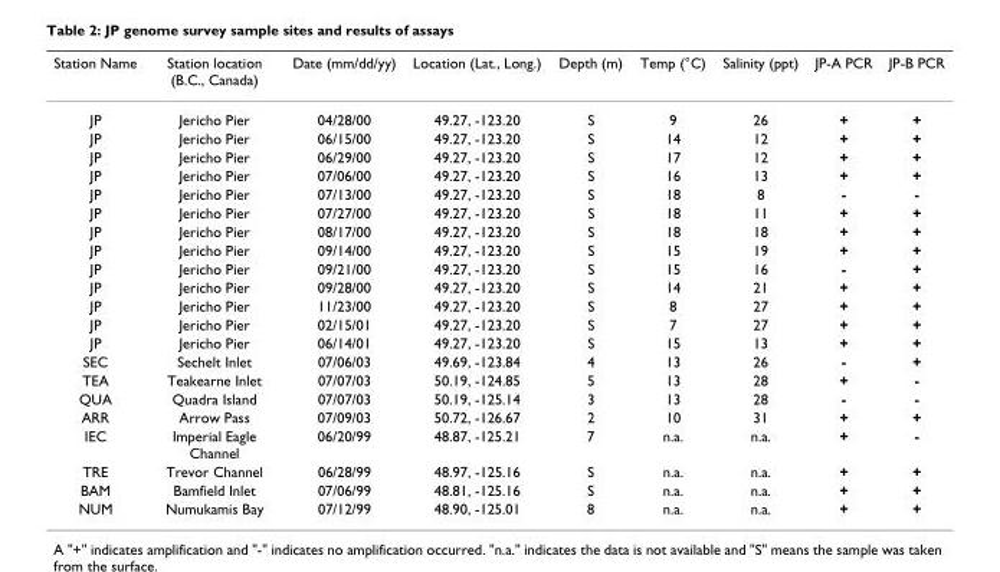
<table><thead><tr><td>Station Name</td><td>Station location (B.C., Canada)</td><td>Date (mm/dd/yy)</td><td>Location (Lat., Long.)</td><td>Depth (m)</td><td>Temp (°C)</td><td>Salinity (ppt)</td><td>JP-A PCR</td><td>JP-B PCR</td></tr></thead><tbody><tr><td>JP</td><td>Jericho Pier</td><td>04/28/00</td><td>49.27, -123.20</td><td>S</td><td>9</td><td>26</td><td>+</td><td>+</td></tr><tr><td>JP</td><td>Jericho Pier</td><td>06/15/00</td><td>49.27, -123.20</td><td>S</td><td>14</td><td>12</td><td>+</td><td>+</td></tr><tr><td>JP</td><td>Jericho Pier</td><td>06/29/00</td><td>49.27, -123.20</td><td>S</td><td>17</td><td>12</td><td>+</td><td>+</td></tr><tr><td>JP</td><td>Jericho Pier</td><td>07/06/00</td><td>49.27, -123.20</td><td>S</td><td>16</td><td>13</td><td>+</td><td>+</td></tr><tr><td>JP</td><td>Jericho Pier</td><td>07/13/00</td><td>49.27, -123.20</td><td>S</td><td>18</td><td>8</td><td>-</td><td>-</td></tr><tr><td>JP</td><td>Jericho Pier</td><td>07/27/00</td><td>49.27, -123.20</td><td>S</td><td>18</td><td>11</td><td>+</td><td>+</td></tr><tr><td>JP</td><td>Jericho Pier</td><td>08/17/00</td><td>49.27, -123.20</td><td>S</td><td>18</td><td>18</td><td>+</td><td>+</td></tr><tr><td>JP</td><td>Jericho Pier</td><td>09/14/00</td><td>49.27, -123.20</td><td>S</td><td>15</td><td>19</td><td>+</td><td>+</td></tr><tr><td>JP</td><td>Jericho Pier</td><td>09/21/00</td><td>49.27, -123.20</td><td>S</td><td>15</td><td>16</td><td>-</td><td>+</td></tr><tr><td>JP</td><td>Jericho Pier</td><td>09/28/00</td><td>49.27, -123.20</td><td>S</td><td>14</td><td>21</td><td>+</td><td>+</td></tr><tr><td>JP</td><td>Jericho Pier</td><td>11/23/00</td><td>49.27, -123.20</td><td>S</td><td>8</td><td>27</td><td>+</td><td>+</td></tr><tr><td>JP</td><td>Jericho Pier</td><td>02/15/01</td><td>49.27, -123.20</td><td>S</td><td>7</td><td>27</td><td>+</td><td>+</td></tr><tr><td>JP</td><td>Jericho Pier</td><td>06/14/01</td><td>49.27, -123.20</td><td>S</td><td>15</td><td>13</td><td>+</td><td>+</td></tr><tr><td>SEC</td><td>Sechelt Inlet</td><td>07/06/03</td><td>49.69, -123.84</td><td>4</td><td>13</td><td>26</td><td>-</td><td>+</td></tr><tr><td>TEA</td><td>Teakearne Inlet</td><td>07/07/03</td><td>50.19, -124.85</td><td>5</td><td>13</td><td>28</td><td>+</td><td>-</td></tr><tr><td>QUA</td><td>Quadra Island</td><td>07/07/03</td><td>50.19, -125.14</td><td>3</td><td>13</td><td>28</td><td>-</td><td>-</td></tr><tr><td>ARR</td><td>Arrow Pass</td><td>07/09/03</td><td>50.72, -126.67</td><td>2</td><td>10</td><td>31</td><td>+</td><td>+</td></tr><tr><td>IEC</td><td>Imperial Eagle Channel</td><td>06/20/99</td><td>48.87, -125.21</td><td>7</td><td>n.a.</td><td>n.a.</td><td>+</td><td>-</td></tr><tr><td>TRE</td><td>Trevor Channel</td><td>06/28/99</td><td>48.97, -125.16</td><td>S</td><td>n.a.</td><td>n.a.</td><td>+</td><td>+</td></tr><tr><td>BAM</td><td>Bamfield Inlet</td><td>07/06/99</td><td>48.81, -125.16</td><td>S</td><td>n.a.</td><td>n.a.</td><td>+</td><td>+</td></tr><tr><td>NUM</td><td>Numukamis Bay</td><td>07/12/99</td><td>48.90, -125.01</td><td>8</td><td>n.a.</td><td>n.a.</td><td>+</td><td>+</td></tr></tbody></table>